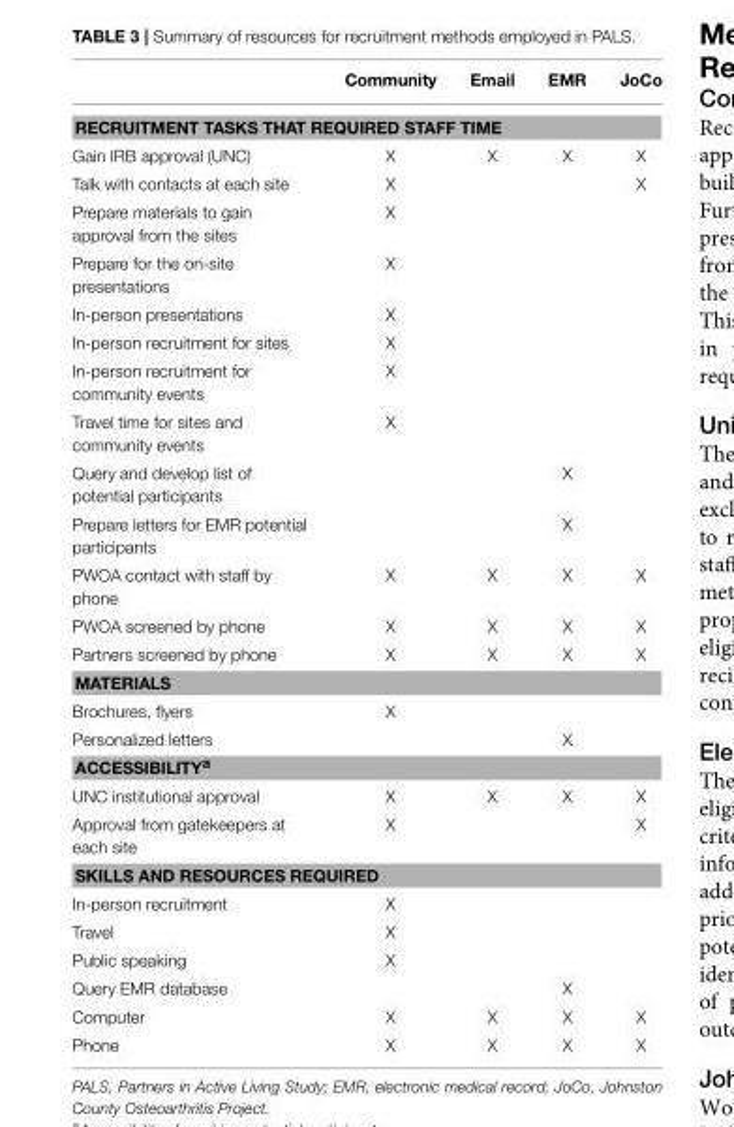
<table><thead><tr><td></td><td>Community</td><td>Email</td><td>EMR</td><td>JoCo</td></tr></thead><tbody><tr><td colspan="5">RECRUITMENT TASKS THAT REQUIRED STAFF TIME</td></tr><tr><td>Gain IRB approval (UNC)</td><td>X</td><td>X</td><td>X</td><td>X</td></tr><tr><td>Talk with contacts at each site</td><td>X</td><td></td><td></td><td>X</td></tr><tr><td>Prepare materials to gain approval from the sites</td><td>X</td><td></td><td></td><td></td></tr><tr><td>Prepare for the on-site presentations</td><td>X</td><td></td><td></td><td></td></tr><tr><td>In-person presentations</td><td>X</td><td></td><td></td><td></td></tr><tr><td>In-person recruitment for sites</td><td>X</td><td></td><td></td><td></td></tr><tr><td>In-person recruitment for community events</td><td>X</td><td></td><td></td><td></td></tr><tr><td>Travel time for sites and community events</td><td>X</td><td></td><td></td><td></td></tr><tr><td>Query and develop list of potential participants</td><td></td><td></td><td>X</td><td></td></tr><tr><td>Prepare letters for EMR potential participants</td><td></td><td></td><td>X</td><td></td></tr><tr><td>PWOA contact with staff by phone</td><td>X</td><td>X</td><td>X</td><td>X</td></tr><tr><td>PWOA screened by phone</td><td>X</td><td>X</td><td>X</td><td>X</td></tr><tr><td>Partners screened by phone</td><td>X</td><td>X</td><td>X</td><td>X</td></tr><tr><td colspan="5">MATERIALS</td></tr><tr><td>Brochures, flyers</td><td>X</td><td></td><td></td><td></td></tr><tr><td>Personalized letters</td><td></td><td></td><td>X</td><td></td></tr><tr><td colspan="5">ACCESSIBILITY<sup>a</sup></td></tr><tr><td>UNC institutional approval</td><td>X</td><td>X</td><td>X</td><td>X</td></tr><tr><td>Approval from gatekeepers at each site</td><td>X</td><td></td><td></td><td>X</td></tr><tr><td colspan="5">SKILLS AND RESOURCES REQUIRED</td></tr><tr><td>In-person recruitment</td><td>X</td><td></td><td></td><td></td></tr><tr><td>Travel</td><td>X</td><td></td><td></td><td></td></tr><tr><td>Public speaking</td><td>X</td><td></td><td></td><td></td></tr><tr><td>Query EMR database</td><td></td><td></td><td>X</td><td></td></tr><tr><td>Computer</td><td>X</td><td>X</td><td>X</td><td>X</td></tr><tr><td>Phone</td><td>X</td><td>X</td><td>X</td><td>X</td></tr></tbody></table>